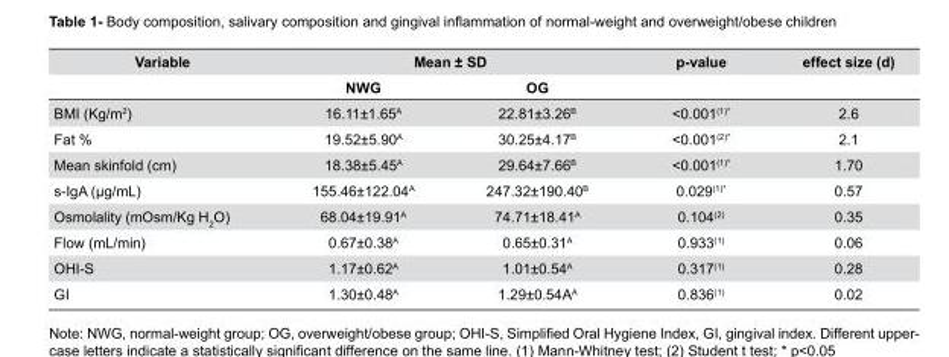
<table><thead><tr><td rowspan="2">Variable</td><td colspan="2">Mean ± SD</td><td rowspan="2">p-value</td><td rowspan="2">effect size (d)</td></tr><tr><td>NWG</td><td>OG</td></tr></thead><tbody><tr><td>BMI (Kg/m<sup>2</sup>)</td><td>16.11±1.65<sup>A</sup></td><td>22.81±3.26<sup>B</sup></td><td>&lt;0.001(1)*</td><td>2.6</td></tr><tr><td>Fat %</td><td>19.52±5.90<sup>A</sup></td><td>30.25±4.17<sup>B</sup></td><td>&lt;0.001(2)*</td><td>2.1</td></tr><tr><td>Mean skinfold (cm)</td><td>18.38±5.45<sup>A</sup></td><td>29.64±7.66<sup>B</sup></td><td>&lt;0.001(1)*</td><td>1.70</td></tr><tr><td>s-IgA (μg/mL)</td><td>155.46±122.04<sup>A</sup></td><td>247.32±190.40<sup>B</sup></td><td>0.029(1)*</td><td>0.57</td></tr><tr><td>Osmolality (mOsm/Kg H<sub>2</sub>O)</td><td>68.04±19.91<sup>A</sup></td><td>74.71±18.41<sup>A</sup></td><td>0.104(2)</td><td>0.35</td></tr><tr><td>Flow (mL/min)</td><td>0.67±0.38<sup>A</sup></td><td>0.65±0.31<sup>A</sup></td><td>0.933(1)</td><td>0.06</td></tr><tr><td>OHI-S</td><td>1.17±0.62<sup>A</sup></td><td>1.01±0.54<sup>A</sup></td><td>0.317(1)</td><td>0.28</td></tr><tr><td>GI</td><td>1.30±0.48<sup>A</sup></td><td>1.29±0.54A<sup>A</sup></td><td>0.836(1)</td><td>0.02</td></tr></tbody></table>